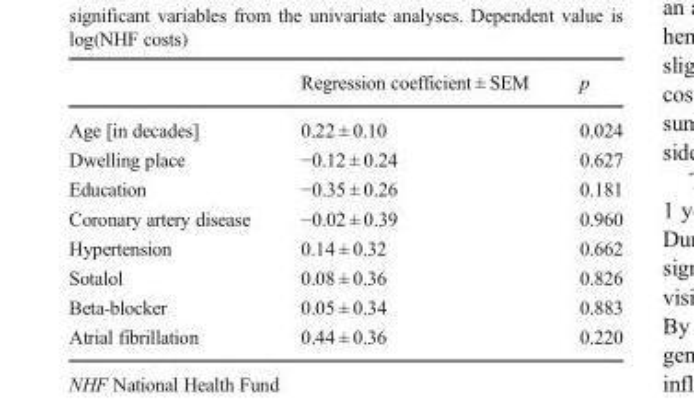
<table><thead><tr><td></td><td>Regression coefficient ± SEM</td><td>p</td></tr></thead><tbody><tr><td>Age [in decades]</td><td>0.22 ± 0.10</td><td>0.024</td></tr><tr><td>Dwelling place</td><td>−0.12 ± 0.24</td><td>0.627</td></tr><tr><td>Education</td><td>−0.35 ± 0.26</td><td>0.181</td></tr><tr><td>Coronary artery disease</td><td>−0.02 ± 0.39</td><td>0.960</td></tr><tr><td>Hypertension</td><td>0.14 ± 0.32</td><td>0.662</td></tr><tr><td>Sotalol</td><td>0.08 ± 0.36</td><td>0.826</td></tr><tr><td>Beta-blocker</td><td>0.05 ± 0.34</td><td>0.883</td></tr><tr><td>Atrial fibrillation</td><td>0.44 ± 0.36</td><td>0.220</td></tr></tbody></table>